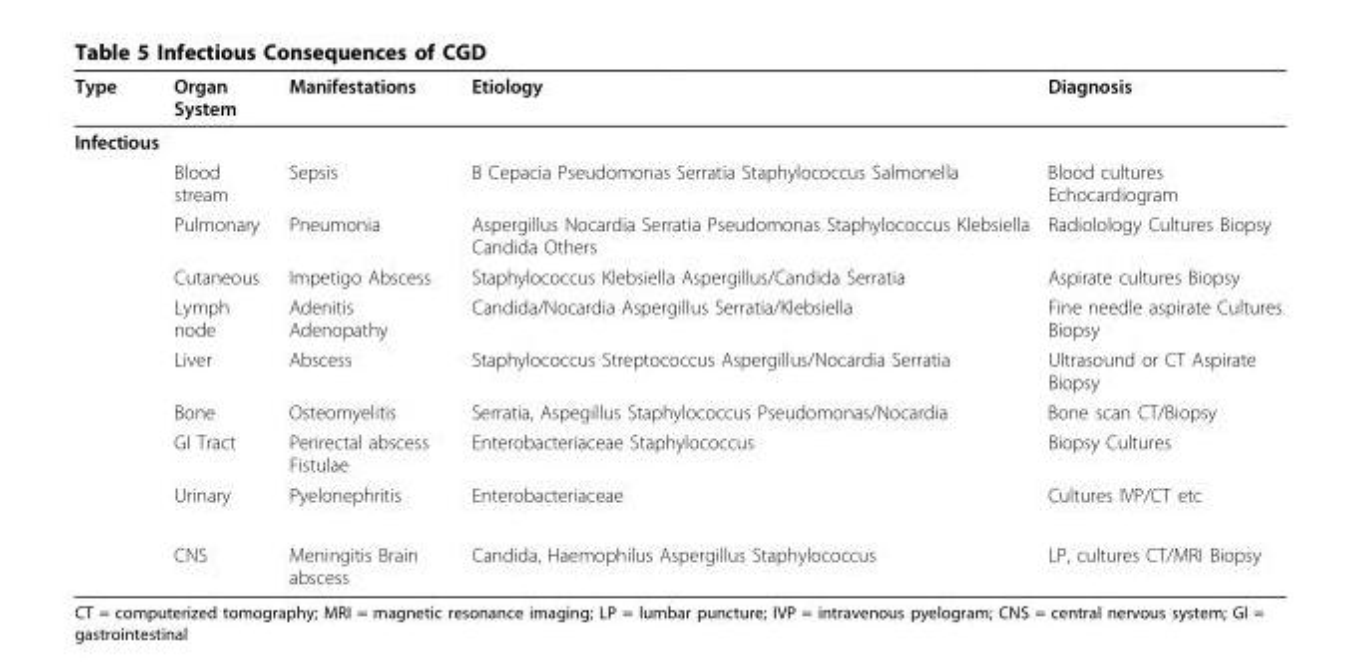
<table><thead><tr><td>Type</td><td>Organ System</td><td>Manifestations</td><td>Etiology</td><td>Diagnosis</td></tr></thead><tbody><tr><td colspan="5">Infectious</td></tr><tr><td></td><td>Blood stream</td><td>Sepsis</td><td>B Cepacia Pseudomonas Serratia Staphylococcus Salmonella</td><td>Blood cultures Echocardiogram</td></tr><tr><td></td><td>Pulmonary</td><td>Pneumonia</td><td>Aspergillus Nocardia Serratia Pseudomonas Staphylococcus Klebsiella Candida Others</td><td>Radiolology Cultures Biopsy</td></tr><tr><td></td><td>Cutaneous</td><td>Impetigo Abscess</td><td>Staphylococcus Klebsiella Aspergillus/Candida Serratia</td><td>Aspirate cultures Biopsy</td></tr><tr><td></td><td>Lymph node</td><td>Adenitis Adenopathy</td><td>Candida/Nocardia Aspergillus Serratia/Klebsiella</td><td>Fine needle aspirate Cultures Biopsy</td></tr><tr><td></td><td>Liver</td><td>Abscess</td><td>Staphylococcus Streptococcus Aspergillus/Nocardia Serratia</td><td>Ultrasound or CT Aspirate Biopsy</td></tr><tr><td></td><td>Bone</td><td>Osteomyelitis</td><td>Serratia, Aspegillus Staphylococcus Pseudomonas/Nocardia</td><td>Bone scan CT/Biopsy</td></tr><tr><td></td><td>GI Tract</td><td>Perirectal abscess Fistulae</td><td>Enterobacteriaceae Staphylococcus</td><td>Biopsy Cultures</td></tr><tr><td></td><td>Urinary</td><td>Pyelonephritis</td><td>Enterobacteriaceae</td><td>Cultures IVP/CT etc</td></tr><tr><td></td><td>CNS</td><td>Meningitis Brain abscess</td><td>Candida, Haemophilus Aspergillus Staphylococcus</td><td>LP, cultures CT/MRI Biopsy</td></tr></tbody></table>